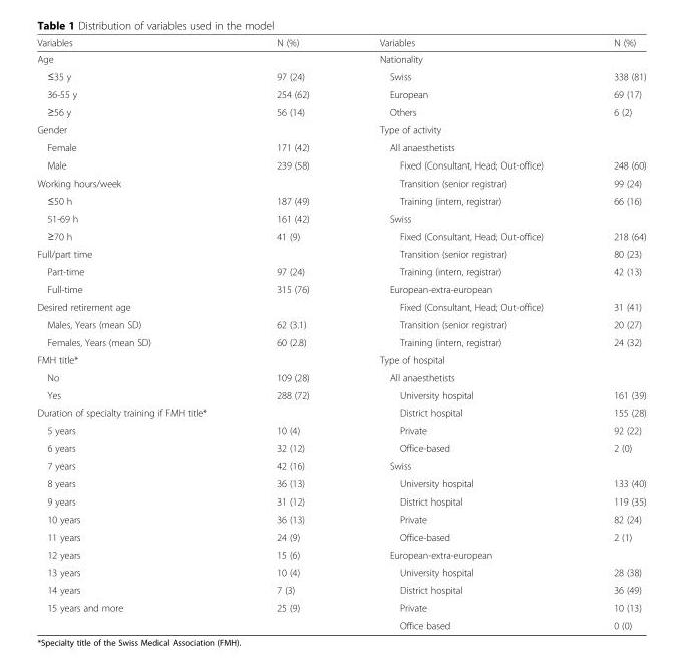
<table><thead><tr><td>Variables</td><td>N (%)</td><td>Variables</td><td>N (%)</td></tr></thead><tbody><tr><td>Age</td><td></td><td>Nationality</td><td></td></tr><tr><td>≤35 y</td><td>97 (24)</td><td>Swiss</td><td>338 (81)</td></tr><tr><td>36-55 y</td><td>254 (62)</td><td>European</td><td>69 (17)</td></tr><tr><td>≥56 y</td><td>56 (14)</td><td>Others</td><td>6 (2)</td></tr><tr><td>Gender</td><td></td><td>Type of activity</td><td></td></tr><tr><td>Female</td><td>171 (42)</td><td>All anaesthetists</td><td></td></tr><tr><td>Male</td><td>239 (58)</td><td>Fixed (Consultant, Head; Out-office)</td><td>248 (60)</td></tr><tr><td>Working hours/week</td><td></td><td>Transition (senior registrar)</td><td>99 (24)</td></tr><tr><td>≤50 h</td><td>187 (49)</td><td>Training (intern, registrar)</td><td>66 (16)</td></tr><tr><td>51-69 h</td><td>161 (42)</td><td>Swiss</td><td></td></tr><tr><td>≥70 h</td><td>41 (9)</td><td>Fixed (Consultant, Head; Out-office)</td><td>218 (64)</td></tr><tr><td>Full/part time</td><td></td><td>Transition (senior registrar)</td><td>80 (23)</td></tr><tr><td>Part-time</td><td>97 (24)</td><td>Training (intern, registrar)</td><td>42 (13)</td></tr><tr><td>Full-time</td><td>315 (76)</td><td>European-extra-european</td><td></td></tr><tr><td>Desired retirement age</td><td></td><td>Fixed (Consultant, Head; Out-office)</td><td>31 (41)</td></tr><tr><td>Males, Years (mean SD)</td><td>62 (3.1)</td><td>Transition (senior registrar)</td><td>20 (27)</td></tr><tr><td>Females, Years (mean SD)</td><td>60 (2.8)</td><td>Training (intern, registrar)</td><td>24 (32)</td></tr><tr><td>FMH title*</td><td></td><td>Type of hospital</td><td></td></tr><tr><td>No</td><td>109 (28)</td><td>All anaesthetists</td><td></td></tr><tr><td>Yes</td><td>288 (72)</td><td>University hospital</td><td>161 (39)</td></tr><tr><td>Duration of specialty training if FMH title*</td><td></td><td>District hospital</td><td>155 (28)</td></tr><tr><td>5 years</td><td>10 (4)</td><td>Private</td><td>92 (22)</td></tr><tr><td>6 years</td><td>32 (12)</td><td>Office-based</td><td>2 (0)</td></tr><tr><td>7 years</td><td>42 (16)</td><td>Swiss</td><td></td></tr><tr><td>8 years</td><td>36 (13)</td><td>University hospital</td><td>133 (40)</td></tr><tr><td>9 years</td><td>31 (12)</td><td>District hospital</td><td>119 (35)</td></tr><tr><td>10 years</td><td>36 (13)</td><td>Private</td><td>82 (24)</td></tr><tr><td>11 years</td><td>24 (9)</td><td>Office-based</td><td>2 (1)</td></tr><tr><td>12 years</td><td>15 (6)</td><td>European-extra-european</td><td></td></tr><tr><td>13 years</td><td>10 (4)</td><td>University hospital</td><td>28 (38)</td></tr><tr><td>14 years</td><td>7 (3)</td><td>District hospital</td><td>36 (49)</td></tr><tr><td rowspan="2">15 years and more</td><td rowspan="2">25 (9)</td><td>Private</td><td>10 (13)</td></tr><tr><td>Office based</td><td>0 (0)</td></tr></tbody></table>